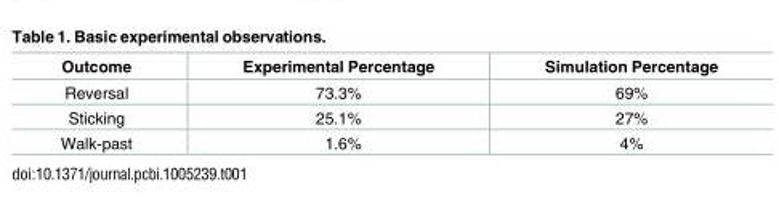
<table><thead><tr><td>Outcome</td><td>Experimental Percentage</td><td>Simulation Percentage</td></tr></thead><tbody><tr><td>Reversal</td><td>73.3%</td><td>69%</td></tr><tr><td>Sticking</td><td>25.1%</td><td>27%</td></tr><tr><td>Walk-past</td><td>1.6%</td><td>4%</td></tr></tbody></table>